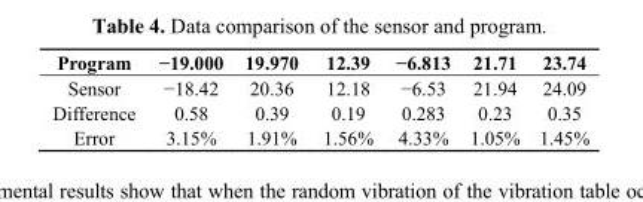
<table><thead><tr><td>Program</td><td>−19.000</td><td>19.970</td><td>12.39</td><td>−6.813</td><td>21.71</td><td>23.74</td></tr></thead><tbody><tr><td>Sensor</td><td>−18.42</td><td>20.36</td><td>12.18</td><td>−6.53</td><td>21.94</td><td>24.09</td></tr><tr><td>Difference</td><td>0.58</td><td>0.39</td><td>0.19</td><td>0.283</td><td>0.23</td><td>0.35</td></tr><tr><td>Error</td><td>3.15%</td><td>1.91%</td><td>1.56%</td><td>4.33%</td><td>1.05%</td><td>1.45%</td></tr></tbody></table>